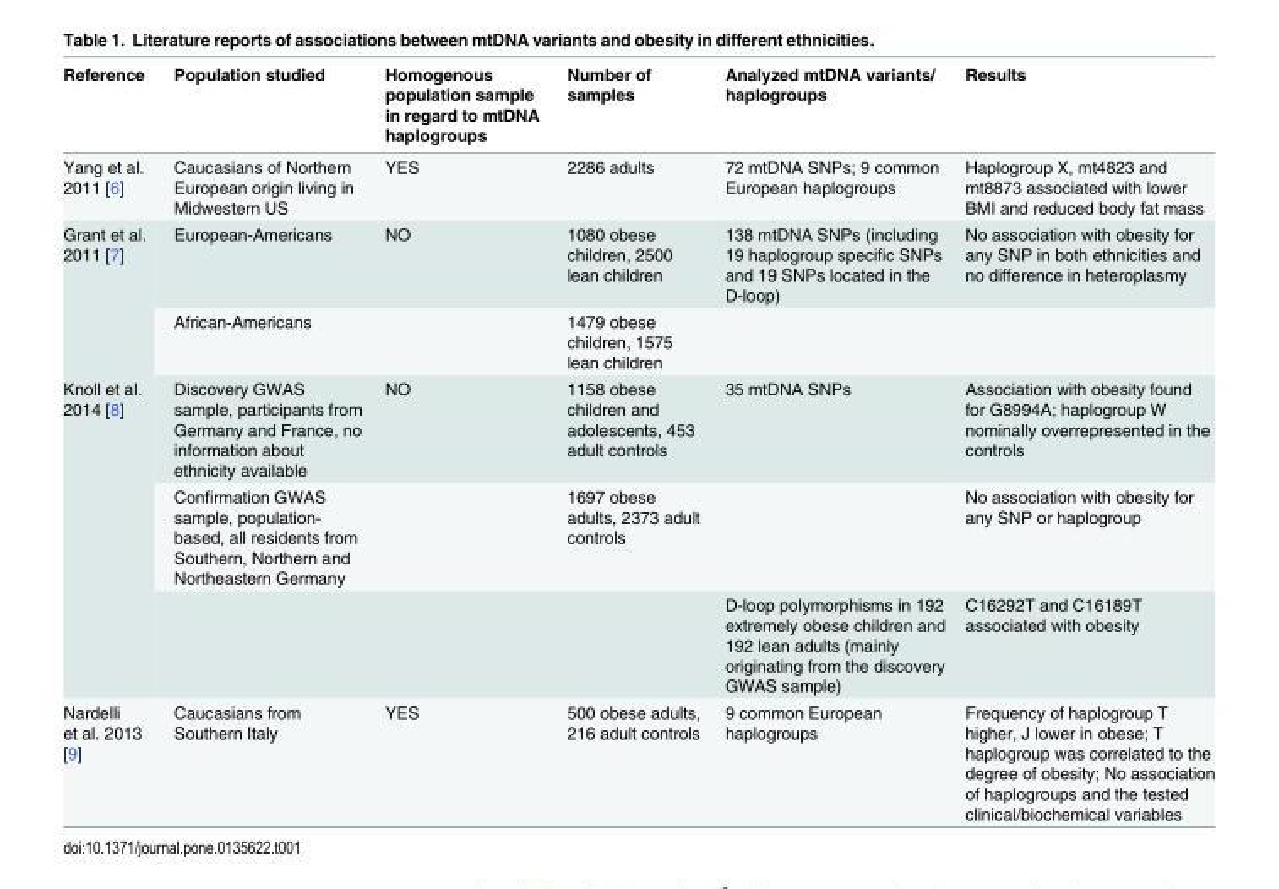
<table><thead><tr><td>Reference</td><td>Population studied</td><td>Homogenous population sample in regard to mtDNA haplogroups</td><td>Number of samples</td><td>Analyzed mtDNA variants/ haplogroups</td><td>Results</td></tr></thead><tbody><tr><td>Yang et al. 2011 [6]</td><td>Caucasians of Northern European origin living in Midwestern US</td><td>YES</td><td>2286 adults</td><td>72 mtDNA SNPs; 9 common European haplogroups</td><td>Haplogroup X, mt4823 and mt8873 associated with lower BMI and reduced body fat mass</td></tr><tr><td rowspan="2">Grant et al. 2011 [7]</td><td>European-Americans</td><td>NO</td><td>1080 obese children, 2500 lean children</td><td>138 mtDNA SNPs (including 19 haplogroup specific SNPs and 19 SNPs located in the D-loop)</td><td>No association with obesity for any SNP in both ethnicities and no difference in heteroplasmy</td></tr><tr><td>African-Americans</td><td></td><td>1479 obese children, 1575 lean children</td><td></td><td></td></tr><tr><td rowspan="3">Knoll et al. 2014 [8]</td><td>Discovery GWAS sample, participants from Germany and France, no information about ethnicity available</td><td>NO</td><td>1158 obese children and adolescents, 453 adult controls</td><td>35 mtDNA SNPs</td><td>Association with obesity found for G8994A; haplogroup W nominally overrepresented in the controls</td></tr><tr><td>Confirmation GWAS sample, population- based, all residents from Southern, Northern and Northeastern Germany</td><td></td><td>1697 obese adults, 2373 adult controls</td><td></td><td>No association with obesity for any SNP or haplogroup</td></tr><tr><td></td><td></td><td></td><td>D-loop polymorphisms in 192 extremely obese children and 192 lean adults (mainly originating from the discovery GWAS sample)</td><td>C16292T and C16189T associated with obesity</td></tr><tr><td>Nardelli et al. 2013 [9]</td><td>Caucasians from Southern Italy</td><td>YES</td><td>500 obese adults, 216 adult controls</td><td>9 common European haplogroups</td><td>Frequency of haplogroup T higher, J lower in obese; T haplogroup was correlated to the degree of obesity; No association of haplogroups and the tested clinical/biochemical variables</td></tr></tbody></table>